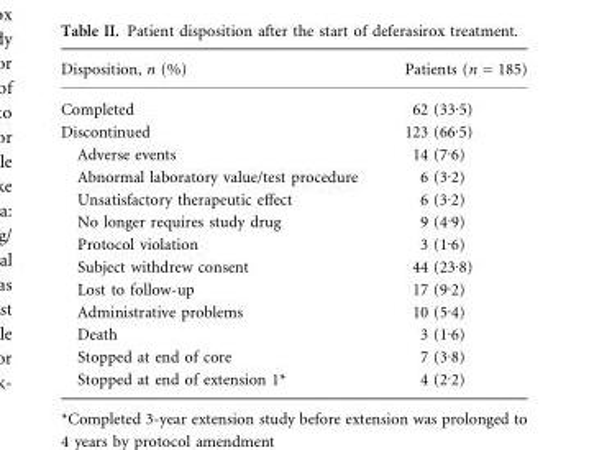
<table><thead><tr><td>Disposition, n (%)</td><td>Patients (n = 185)</td></tr></thead><tbody><tr><td>Completed</td><td>62 (33Æ5)</td></tr><tr><td>Discontinued</td><td>123 (66Æ5)</td></tr><tr><td>Adverse events</td><td>14 (7Æ6)</td></tr><tr><td>Abnormal laboratory value/test procedure</td><td>6 (3Æ2)</td></tr><tr><td>Unsatisfactory therapeutic effect</td><td>6 (3Æ2)</td></tr><tr><td>No longer requires study drug</td><td>9 (4Æ9)</td></tr><tr><td>Protocol violation</td><td>3 (1Æ6)</td></tr><tr><td>Subject withdrew consent</td><td>44 (23Æ8)</td></tr><tr><td>Lost to follow-up</td><td>17 (9Æ2)</td></tr><tr><td>Administrative problems</td><td>10 (5Æ4)</td></tr><tr><td>Death</td><td>3 (1Æ6)</td></tr><tr><td>Stopped at end of core</td><td>7 (3Æ8)</td></tr><tr><td>Stopped at end of extension 1*</td><td>4 (2Æ2)</td></tr></tbody></table>